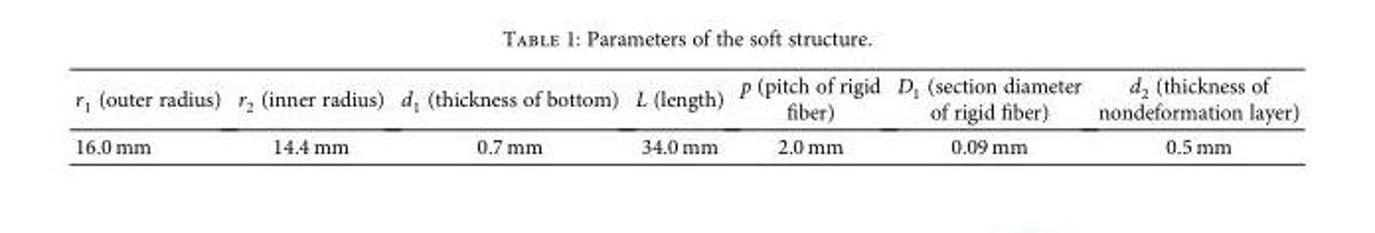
<table><thead><tr><td>r<sub>1</sub> (outer radius)</td><td>r<sub>2</sub> (inner radius)</td><td>d<sub>1</sub> (thickness of bottom)</td><td>L (length)</td><td>p (pitch of rigid fiber)</td><td>D<sub>1</sub> (section diameter of rigid fiber)</td><td>d<sub>2</sub> (thickness of nondeformation layer)</td></tr></thead><tbody><tr><td>16.0 mm</td><td>14.4 mm</td><td>0.7 mm</td><td>34.0 mm</td><td>2.0 mm</td><td>0.09 mm</td><td>0.5 mm</td></tr></tbody></table>